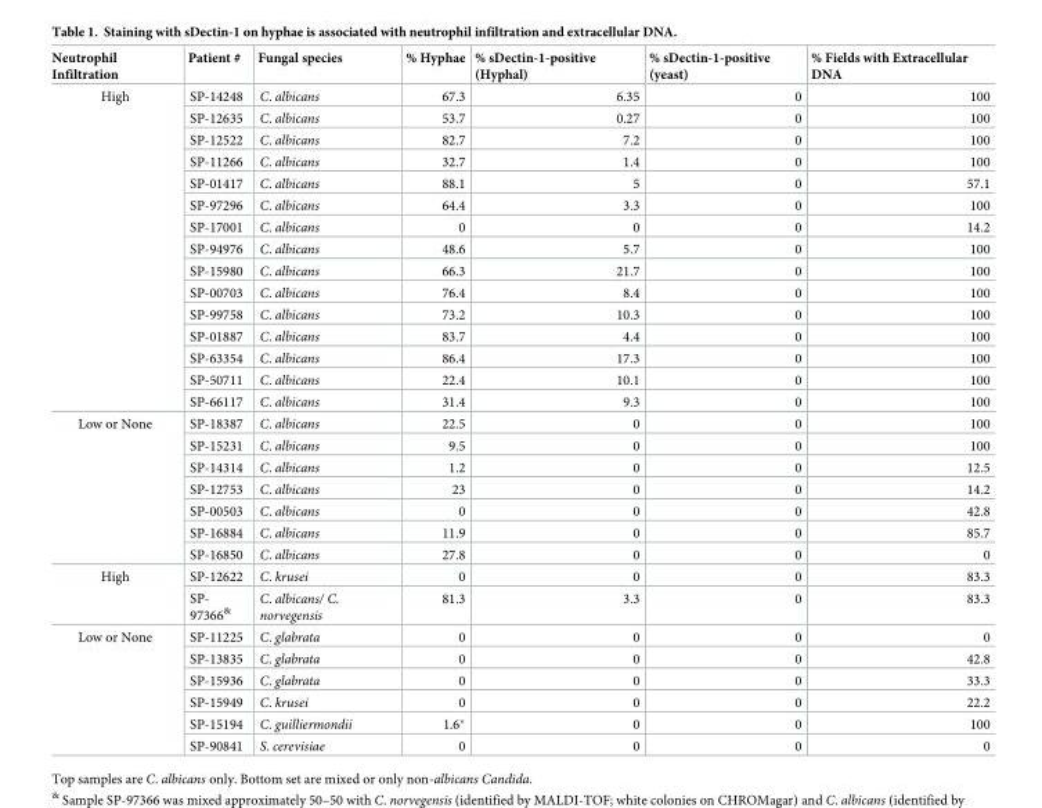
<table><thead><tr><td>Neutrophil Infiltration</td><td>Patient #</td><td>Fungal species</td><td>% Hyphae</td><td>% sDectin-1-positive (Hyphal)</td><td>% sDectin-1-positive (yeast)</td><td>% Fields with Extracellular DNA</td></tr></thead><tbody><tr><td rowspan="15">High</td><td>SP-14248</td><td>C. albicans</td><td>67.3</td><td>6.35</td><td>0</td><td>100</td></tr><tr><td>SP-12635</td><td>C. albicans</td><td>53.7</td><td>0.27</td><td>0</td><td>100</td></tr><tr><td>SP-12522</td><td>C. albicans</td><td>82.7</td><td>7.2</td><td>0</td><td>100</td></tr><tr><td>SP-11266</td><td>C. albicans</td><td>32.7</td><td>1.4</td><td>0</td><td>100</td></tr><tr><td>SP-01417</td><td>C. albicans</td><td>88.1</td><td>5</td><td>0</td><td>57.1</td></tr><tr><td>SP-97296</td><td>C. albicans</td><td>64.4</td><td>3.3</td><td>0</td><td>100</td></tr><tr><td>SP-17001</td><td>C. albicans</td><td>0</td><td>0</td><td>0</td><td>14.2</td></tr><tr><td>SP-94976</td><td>C. albicans</td><td>48.6</td><td>5.7</td><td>0</td><td>100</td></tr><tr><td>SP-15980</td><td>C. albicans</td><td>66.3</td><td>21.7</td><td>0</td><td>100</td></tr><tr><td>SP-00703</td><td>C. albicans</td><td>76.4</td><td>8.4</td><td>0</td><td>100</td></tr><tr><td>SP-99758</td><td>C. albicans</td><td>73.2</td><td>10.3</td><td>0</td><td>100</td></tr><tr><td>SP-01887</td><td>C. albicans</td><td>83.7</td><td>4.4</td><td>0</td><td>100</td></tr><tr><td>SP-63354</td><td>C. albicans</td><td>86.4</td><td>17.3</td><td>0</td><td>100</td></tr><tr><td>SP-50711</td><td>C. albicans</td><td>22.4</td><td>10.1</td><td>0</td><td>100</td></tr><tr><td>SP-66117</td><td>C. albicans</td><td>31.4</td><td>9.3</td><td>0</td><td>100</td></tr><tr><td rowspan="7">Low or None</td><td>SP-18387</td><td>C. albicans</td><td>22.5</td><td>0</td><td>0</td><td>100</td></tr><tr><td>SP-15231</td><td>C. albicans</td><td>9.5</td><td>0</td><td>0</td><td>100</td></tr><tr><td>SP-14314</td><td>C. albicans</td><td>1.2</td><td>0</td><td>0</td><td>12.5</td></tr><tr><td>SP-12753</td><td>C. albicans</td><td>23</td><td>0</td><td>0</td><td>14.2</td></tr><tr><td>SP-00503</td><td>C. albicans</td><td>0</td><td>0</td><td>0</td><td>42.8</td></tr><tr><td>SP-16884</td><td>C. albicans</td><td>11.9</td><td>0</td><td>0</td><td>85.7</td></tr><tr><td>SP-16850</td><td>C. albicans</td><td>27.8</td><td>0</td><td>0</td><td>0</td></tr><tr><td rowspan="2">High</td><td>SP-12622</td><td>C. krusei</td><td>0</td><td>0</td><td>0</td><td>83.3</td></tr><tr><td>SP- 97366<sup>&amp;</sup></td><td>C. albicans/ C. norvegensis</td><td>81.3</td><td>3.3</td><td>0</td><td>83.3</td></tr><tr><td rowspan="6">Low or None</td><td>SP-11225</td><td>C. glabrata</td><td>0</td><td>0</td><td>0</td><td>0</td></tr><tr><td>SP-13835</td><td>C. glabrata</td><td>0</td><td>0</td><td>0</td><td>42.8</td></tr><tr><td>SP-15936</td><td>C. glabrata</td><td>0</td><td>0</td><td>0</td><td>33.3</td></tr><tr><td>SP-15949</td><td>C. krusei</td><td>0</td><td>0</td><td>0</td><td>22.2</td></tr><tr><td>SP-15194</td><td>C. guilliermondii</td><td>1.6*</td><td>0</td><td>0</td><td>100</td></tr><tr><td>SP-90841</td><td>S. cerevisiae</td><td>0</td><td>0</td><td>0</td><td>0</td></tr></tbody></table>